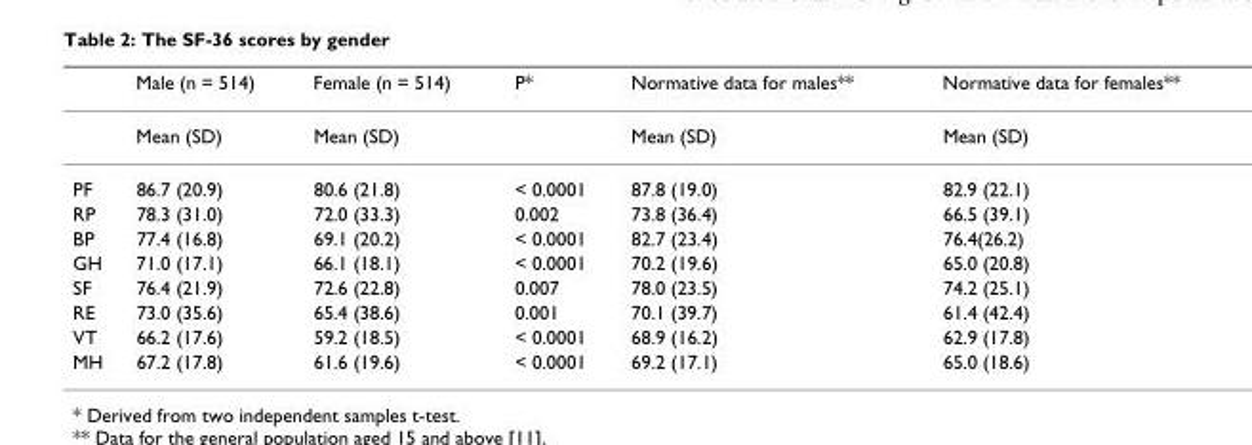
<table><thead><tr><td></td><td>Male (n = 514)</td><td>Female (n = 514)</td><td>P*</td><td>Normative data for males**</td><td>Normative data for females**</td></tr></thead><tbody><tr><td></td><td>Mean (SD)</td><td>Mean (SD)</td><td></td><td>Mean (SD)</td><td>Mean (SD)</td></tr><tr><td>PF</td><td>86.7 (20.9)</td><td>80.6 (21.8)</td><td>&lt; 0.0001</td><td>87.8 (19.0)</td><td>82.9 (22.1)</td></tr><tr><td>RP</td><td>78.3 (31.0)</td><td>72.0 (33.3)</td><td>0.002</td><td>73.8 (36.4)</td><td>66.5 (39.1)</td></tr><tr><td>BP</td><td>77.4 (16.8)</td><td>69.1 (20.2)</td><td>&lt; 0.0001</td><td>82.7 (23.4)</td><td>76.4(26.2)</td></tr><tr><td>GH</td><td>71.0 (17.1)</td><td>66.1 (18.1)</td><td>&lt; 0.0001</td><td>70.2 (19.6)</td><td>65.0 (20.8)</td></tr><tr><td>SF</td><td>76.4 (21.9)</td><td>72.6 (22.8)</td><td>0.007</td><td>78.0 (23.5)</td><td>74.2 (25.1)</td></tr><tr><td>RE</td><td>73.0 (35.6)</td><td>65.4 (38.6)</td><td>0.001</td><td>70.1 (39.7)</td><td>61.4 (42.4)</td></tr><tr><td>VT</td><td>66.2 (17.6)</td><td>59.2 (18.5)</td><td>&lt; 0.0001</td><td>68.9 (16.2)</td><td>62.9 (17.8)</td></tr><tr><td>MH</td><td>67.2 (17.8)</td><td>61.6 (19.6)</td><td>&lt; 0.0001</td><td>69.2 (17.1)</td><td>65.0 (18.6)</td></tr></tbody></table>